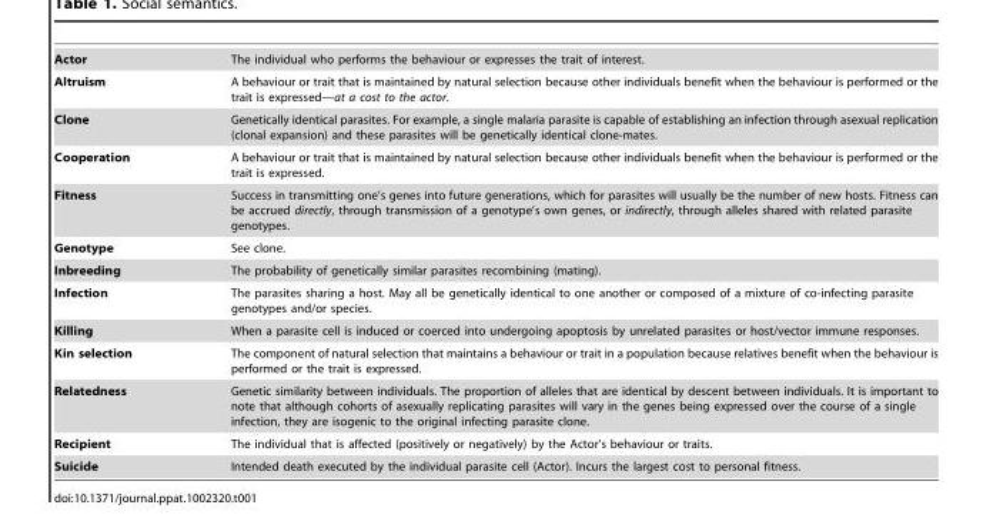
<table><tbody><tr><td>Actor</td><td>The individual who performs the behaviour or expresses the trait of interest.</td></tr><tr><td>Altruism</td><td>A behaviour or trait that is maintained by natural selection because other individuals benefit when the behaviour is performed or the trait is expressed—at a cost to the actor.</td></tr><tr><td>Clone</td><td>Genetically identical parasites. For example, a single malaria parasite is capable of establishing an infection through asexual replication (clonal expansion) and these parasites will be genetically identical clone-mates.</td></tr><tr><td>Cooperation</td><td>A behaviour or trait that is maintained by natural selection because other individuals benefit when the behaviour is performed or the trait is expressed.</td></tr><tr><td>Fitness</td><td>Success in transmitting one’s genes into future generations, which for parasites will usually be the number of new hosts. Fitness can be accrued directly, through transmission of a genotype’s own genes, or indirectly, through alleles shared with related parasite genotypes.</td></tr><tr><td>Genotype</td><td>See clone.</td></tr><tr><td>Inbreeding</td><td>The probability of genetically similar parasites recombining (mating).</td></tr><tr><td>Infection</td><td>The parasites sharing a host. May all be genetically identical to one another or composed of a mixture of co-infecting parasite genotypes and/or species.</td></tr><tr><td>Killing</td><td>When a parasite cell is induced or coerced into undergoing apoptosis by unrelated parasites or host/vector immune responses.</td></tr><tr><td>Kin selection</td><td>The component of natural selection that maintains a behaviour or trait in a population because relatives benefit when the behaviour is performed or the trait is expressed.</td></tr><tr><td>Relatedness</td><td>Genetic similarity between individuals. The proportion of alleles that are identical by descent between individuals. It is important to note that although cohorts of asexually replicating parasites will vary in the genes being expressed over the course of a single infection, they are isogenic to the original infecting parasite clone.</td></tr><tr><td>Recipient</td><td>The individual that is affected (positively or negatively) by the Actor’s behaviour or traits.</td></tr><tr><td>Suicide</td><td>Intended death executed by the individual parasite cell (Actor). Incurs the largest cost to personal fitness.</td></tr></tbody></table>